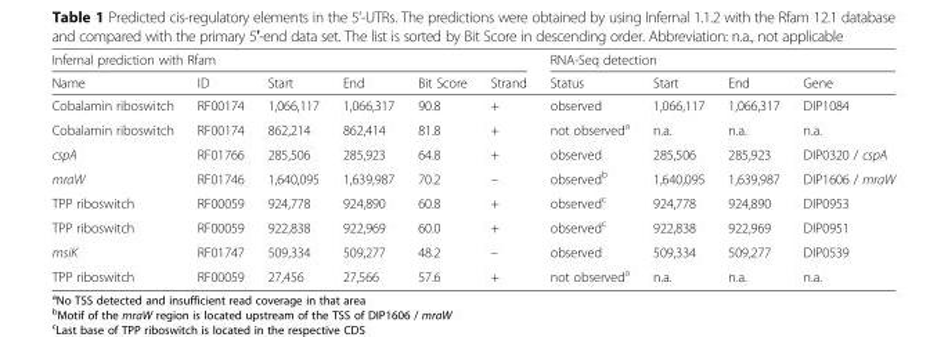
<table><thead><tr><td colspan="6">Infernal prediction with Rfam</td><td colspan="4">RNA-Seq detection</td></tr><tr><td>Name</td><td>ID</td><td>Start</td><td>End</td><td>Bit Score</td><td>Strand</td><td>Status</td><td>Start</td><td>End</td><td>Gene</td></tr></thead><tbody><tr><td>Cobalamin riboswitch</td><td>RF00174</td><td>1,066,117</td><td>1,066,317</td><td>90.8</td><td>+</td><td>observed</td><td>1,066,117</td><td>1,066,317</td><td>DIP1084</td></tr><tr><td>Cobalamin riboswitch</td><td>RF00174</td><td>862,214</td><td>862,414</td><td>81.8</td><td>+</td><td>not observed<sup>a</sup></td><td>n.a.</td><td>n.a.</td><td>n.a.</td></tr><tr><td>cspA</td><td>RF01766</td><td>285,506</td><td>285,923</td><td>64.8</td><td>+</td><td>observed</td><td>285,506</td><td>285,923</td><td>DIP0320 / cspA</td></tr><tr><td>mraW</td><td>RF01746</td><td>1,640,095</td><td>1,639,987</td><td>70.2</td><td>–</td><td>observed<sup>b</sup></td><td>1,640,095</td><td>1,639,987</td><td>DIP1606 / mraW</td></tr><tr><td>TPP riboswitch</td><td>RF00059</td><td>924,778</td><td>924,890</td><td>60.8</td><td>+</td><td>observed<sup>c</sup></td><td>924,778</td><td>924,890</td><td>DIP0953</td></tr><tr><td>TPP riboswitch</td><td>RF00059</td><td>922,838</td><td>922,969</td><td>60.0</td><td>+</td><td>observed<sup>c</sup></td><td>922,838</td><td>922,969</td><td>DIP0951</td></tr><tr><td>msiK</td><td>RF01747</td><td>509,334</td><td>509,277</td><td>48.2</td><td>–</td><td>observed</td><td>509,334</td><td>509,277</td><td>DIP0539</td></tr><tr><td>TPP riboswitch</td><td>RF00059</td><td>27,456</td><td>27,566</td><td>57.6</td><td>+</td><td>not observed<sup>a</sup></td><td>n.a.</td><td>n.a.</td><td>n.a.</td></tr></tbody></table>